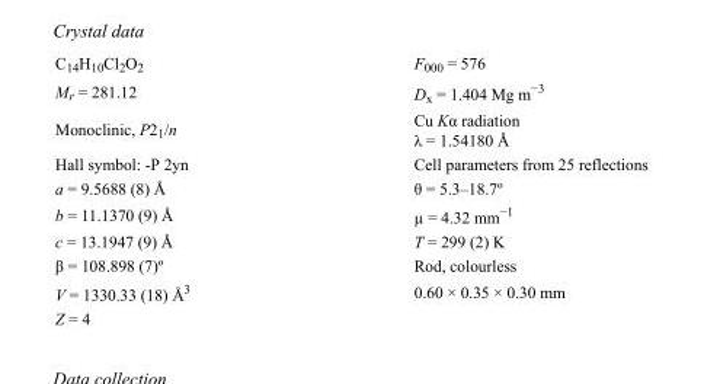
<table><tbody><tr><td>C<sub>14</sub>H<sub>10</sub>Cl<sub>2</sub>O<sub>2</sub></td><td>F<sub>000</sub> = 576</td></tr><tr><td>M<sub>r</sub> = 281.12</td><td>D<sub>x</sub> = 1.404 Mg m<sup>−3</sup></td></tr><tr><td>Monoclinic, P2<sub>1</sub>/n</td><td>Cu Kα radiation λ = 1.54180 Å</td></tr><tr><td>Hall symbol: -P 2yn</td><td>Cell parameters from 25 reflections</td></tr><tr><td>a = 9.5688 (8) Å</td><td>θ = 5.3–18.7º</td></tr><tr><td>b = 11.1370 (9) Å</td><td>µ = 4.32 mm<sup>−1</sup></td></tr><tr><td>c = 13.1947 (9) Å</td><td>T = 299 (2) K</td></tr><tr><td>β = 108.898 (7)º</td><td>Rod, colourless</td></tr><tr><td>V = 1330.33 (18) Å<sup>3</sup></td><td>0.60 × 0.35 × 0.30 mm</td></tr><tr><td>Z = 4</td><td></td></tr></tbody></table>